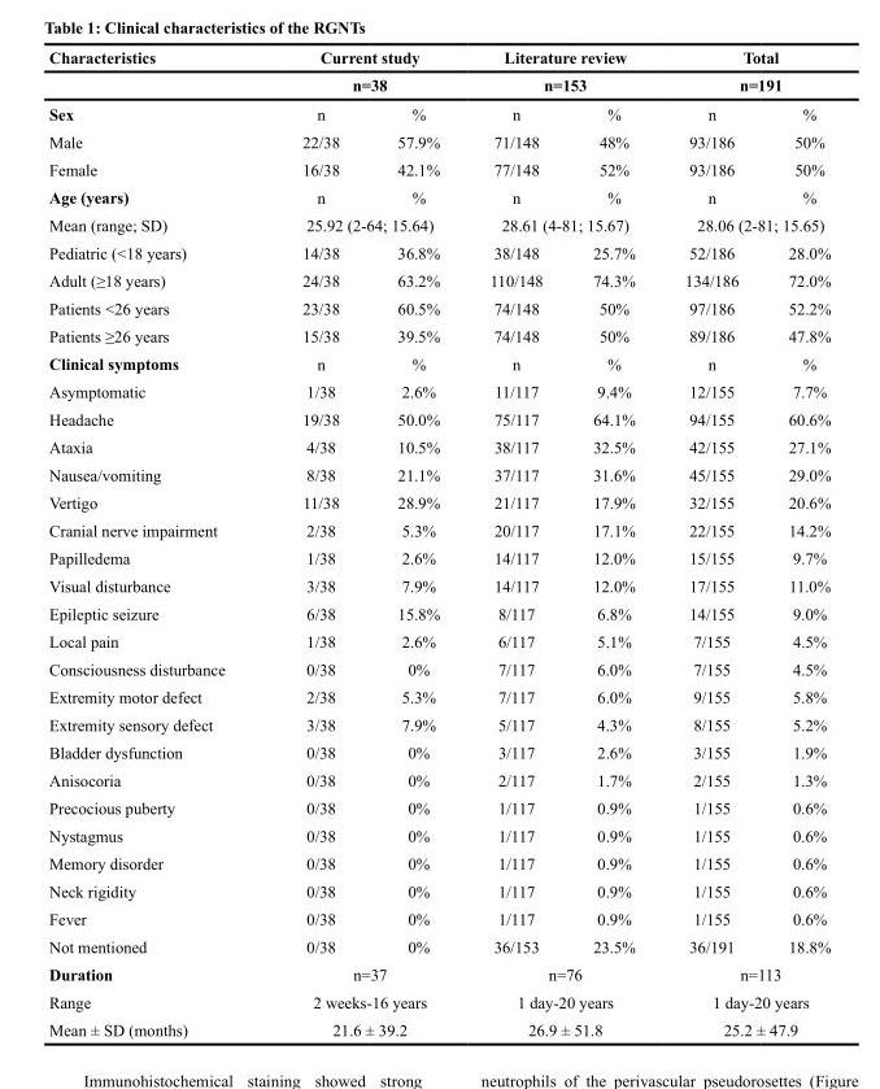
<table><thead><tr><td rowspan="3">Characteristics Sex</td><td rowspan="2" colspan="2">Current study n=38</td><td rowspan="2" colspan="2">Literature review n=153</td><td rowspan="2" colspan="2">Total n=191</td></tr><tr></tr><tr><td>n</td><td>%</td><td>n</td><td>%</td><td>n</td><td>%</td></tr></thead><tbody><tr><td>Male</td><td>22/38</td><td>57.9%</td><td>71/148</td><td>48%</td><td>93/186</td><td>50%</td></tr><tr><td>Female</td><td>16/38</td><td>42.1%</td><td>77/148</td><td>52%</td><td>93/186</td><td>50%</td></tr><tr><td>Age (years)</td><td>n</td><td>%</td><td>n</td><td>%</td><td>n</td><td>%</td></tr><tr><td>Mean (range; SD)</td><td colspan="2">25.92 (2-64; 15.64)</td><td colspan="2">28.61 (4-81; 15.67)</td><td colspan="2">28.06 (2-81; 15.65)</td></tr><tr><td>Pediatric (&lt;18 years)</td><td>14/38</td><td>36.8%</td><td>38/148</td><td>25.7%</td><td>52/186</td><td>28.0%</td></tr><tr><td>Adult (≥18 years)</td><td>24/38</td><td>63.2%</td><td>110/148</td><td>74.3%</td><td>134/186</td><td>72.0%</td></tr><tr><td>Patients &lt;26 years</td><td>23/38</td><td>60.5%</td><td>74/148</td><td>50%</td><td>97/186</td><td>52.2%</td></tr><tr><td>Patients ≥26 years</td><td>15/38</td><td>39.5%</td><td>74/148</td><td>50%</td><td>89/186</td><td>47.8%</td></tr><tr><td>Clinical symptoms</td><td>n</td><td>%</td><td>n</td><td>%</td><td>n</td><td>%</td></tr><tr><td>Asymptomatic</td><td>1/38</td><td>2.6%</td><td>11/117</td><td>9.4%</td><td>12/155</td><td>7.7%</td></tr><tr><td>Headache</td><td>19/38</td><td>50.0%</td><td>75/117</td><td>64.1%</td><td>94/155</td><td>60.6%</td></tr><tr><td>Ataxia</td><td>4/38</td><td>10.5%</td><td>38/117</td><td>32.5%</td><td>42/155</td><td>27.1%</td></tr><tr><td>Nausea/vomiting</td><td>8/38</td><td>21.1%</td><td>37/117</td><td>31.6%</td><td>45/155</td><td>29.0%</td></tr><tr><td>Vertigo</td><td>11/38</td><td>28.9%</td><td>21/117</td><td>17.9%</td><td>32/155</td><td>20.6%</td></tr><tr><td>Cranial nerve impairment</td><td>2/38</td><td>5.3%</td><td>20/117</td><td>17.1%</td><td>22/155</td><td>14.2%</td></tr><tr><td>Papilledema</td><td>1/38</td><td>2.6%</td><td>14/117</td><td>12.0%</td><td>15/155</td><td>9.7%</td></tr><tr><td>Visual disturbance</td><td>3/38</td><td>7.9%</td><td>14/117</td><td>12.0%</td><td>17/155</td><td>11.0%</td></tr><tr><td>Epileptic seizure</td><td>6/38</td><td>15.8%</td><td>8/117</td><td>6.8%</td><td>14/155</td><td>9.0%</td></tr><tr><td>Local pain</td><td>1/38</td><td>2.6%</td><td>6/117</td><td>5.1%</td><td>7/155</td><td>4.5%</td></tr><tr><td>Consciousness disturbance</td><td>0/38</td><td>0%</td><td>7/117</td><td>6.0%</td><td>7/155</td><td>4.5%</td></tr><tr><td>Extremity motor defect</td><td>2/38</td><td>5.3%</td><td>7/117</td><td>6.0%</td><td>9/155</td><td>5.8%</td></tr><tr><td>Extremity sensory defect</td><td>3/38</td><td>7.9%</td><td>5/117</td><td>4.3%</td><td>8/155</td><td>5.2%</td></tr><tr><td>Bladder dysfunction</td><td>0/38</td><td>0%</td><td>3/117</td><td>2.6%</td><td>3/155</td><td>1.9%</td></tr><tr><td>Anisocoria</td><td>0/38</td><td>0%</td><td>2/117</td><td>1.7%</td><td>2/155</td><td>1.3%</td></tr><tr><td>Precocious puberty</td><td>0/38</td><td>0%</td><td>1/117</td><td>0.9%</td><td>1/155</td><td>0.6%</td></tr><tr><td>Nystagmus</td><td>0/38</td><td>0%</td><td>1/117</td><td>0.9%</td><td>1/155</td><td>0.6%</td></tr><tr><td>Memory disorder</td><td>0/38</td><td>0%</td><td>1/117</td><td>0.9%</td><td>1/155</td><td>0.6%</td></tr><tr><td>Neck rigidity</td><td>0/38</td><td>0%</td><td>1/117</td><td>0.9%</td><td>1/155</td><td>0.6%</td></tr><tr><td>Fever</td><td>0/38</td><td>0%</td><td>1/117</td><td>0.9%</td><td>1/155</td><td>0.6%</td></tr><tr><td>Not mentioned</td><td>0/38</td><td>0%</td><td>36/153</td><td>23.5%</td><td>36/191</td><td>18.8%</td></tr><tr><td>Duration</td><td colspan="2">n=37</td><td colspan="2">n=76</td><td colspan="2">n=113</td></tr><tr><td>Range</td><td colspan="2">2 weeks-16 years</td><td colspan="2">1 day-20 years</td><td colspan="2">1 day-20 years</td></tr><tr><td>Mean ± SD (months)</td><td colspan="2">21.6 ± 39.2</td><td colspan="2">26.9 ± 51.8</td><td colspan="2">25.2 ± 47.9</td></tr></tbody></table>